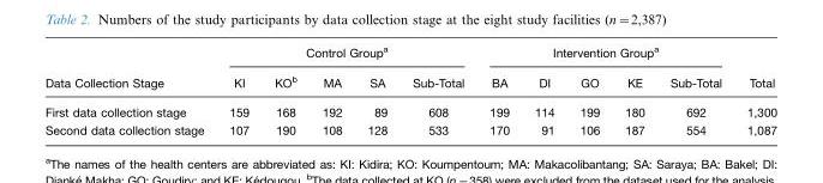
<table><thead><tr><td rowspan="2">Data Collection Stage</td><td colspan="5">Control Group<sup>a</sup></td><td colspan="5">Intervention Group<sup>a</sup></td><td rowspan="2">Total</td></tr><tr><td>KI</td><td>KO<sup>b</sup></td><td>MA</td><td>SA</td><td>Sub-Total</td><td>BA</td><td>DI</td><td>GO</td><td>KE</td><td>Sub-Total</td></tr></thead><tbody><tr><td>First data collection stage</td><td>159</td><td>168</td><td>192</td><td>89</td><td>608</td><td>199</td><td>114</td><td>199</td><td>180</td><td>692</td><td>1,300</td></tr><tr><td>Second data collection stage</td><td>107</td><td>190</td><td>108</td><td>128</td><td>533</td><td>170</td><td>91</td><td>106</td><td>187</td><td>554</td><td>1,087</td></tr></tbody></table>